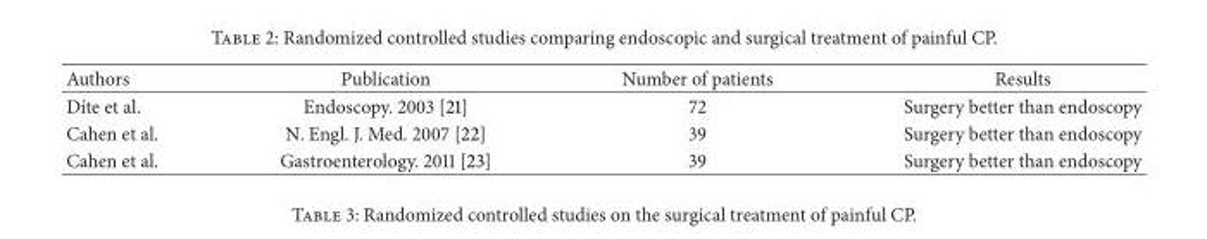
<table><thead><tr><td>Authors</td><td>Publication</td><td>Number of patients</td><td>Results</td></tr></thead><tbody><tr><td>D´ıte et al.</td><td>Endoscopy. 2003 [21]</td><td>72</td><td>Surgery better than endoscopy</td></tr><tr><td>Cahen et al.</td><td>N. Engl. J. Med. 2007 [22]</td><td>39</td><td>Surgery better than endoscopy</td></tr><tr><td>Cahen et al.</td><td>Gastroenterology. 2011 [23]</td><td>39</td><td>Surgery better than endoscopy</td></tr></tbody></table>